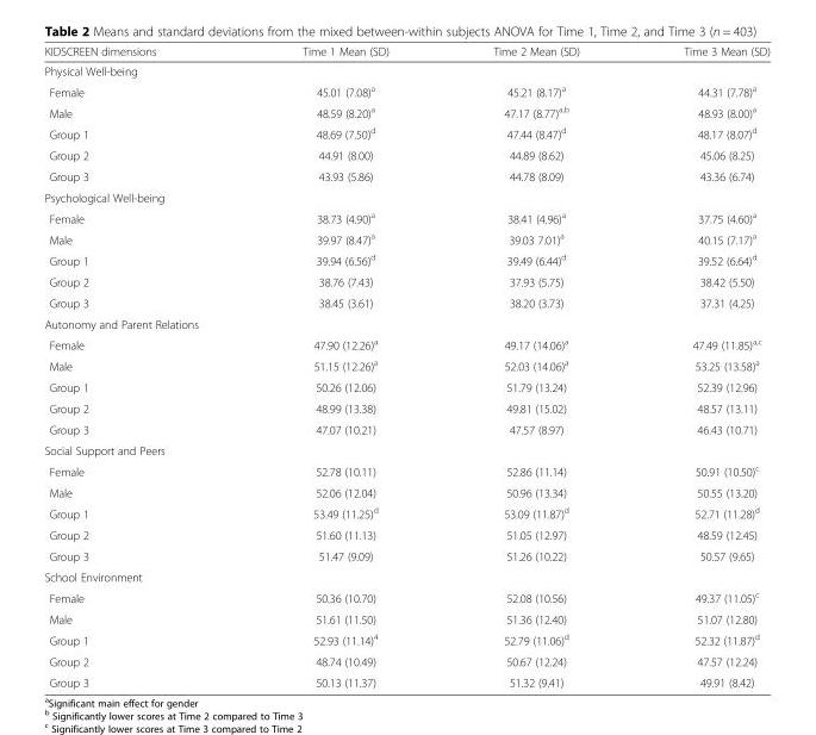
<table><thead><tr><td>KIDSCREEN dimensions</td><td>Time 1 Mean (SD)</td><td>Time 2 Mean (SD)</td><td>Time 3 Mean (SD)</td></tr></thead><tbody><tr><td colspan="4">Physical Well-being</td></tr><tr><td>Female</td><td>45.01 (7.08)<sup>a</sup></td><td>45.21 (8.17)<sup>a</sup></td><td>44.31 (7.78)<sup>a</sup></td></tr><tr><td>Male</td><td>48.59 (8.20)<sup>a</sup></td><td>47.17 (8.77)<sup>a,b</sup></td><td>48.93 (8.00)<sup>a</sup></td></tr><tr><td>Group 1</td><td>48.69 (7.50)<sup>d</sup></td><td>47.44 (8.47)<sup>d</sup></td><td>48.17 (8.07)<sup>d</sup></td></tr><tr><td>Group 2</td><td>44.91 (8.00)</td><td>44.89 (8.62)</td><td>45.06 (8.25)</td></tr><tr><td>Group 3</td><td>43.93 (5.86)</td><td>44.78 (8.09)</td><td>43.36 (6.74)</td></tr><tr><td colspan="4">Psychological Well-being</td></tr><tr><td>Female</td><td>38.73 (4.90)<sup>a</sup></td><td>38.41 (4.96)<sup>a</sup></td><td>37.75 (4.60)<sup>a</sup></td></tr><tr><td>Male</td><td>39.97 (8.47)<sup>a</sup></td><td>39.03 7.01)<sup>a</sup></td><td>40.15 (7.17)<sup>a</sup></td></tr><tr><td>Group 1</td><td>39.94 (6.56)<sup>d</sup></td><td>39.49 (6.44)<sup>d</sup></td><td>39.52 (6.64)<sup>d</sup></td></tr><tr><td>Group 2</td><td>38.76 (7.43)</td><td>37.93 (5.75)</td><td>38.42 (5.50)</td></tr><tr><td>Group 3</td><td>38.45 (3.61)</td><td>38.20 (3.73)</td><td>37.31 (4.25)</td></tr><tr><td colspan="4">Autonomy and Parent Relations</td></tr><tr><td>Female</td><td>47.90 (12.26)<sup>a</sup></td><td>49.17 (14.06)<sup>a</sup></td><td>47.49 (11.85)<sup>a,c</sup></td></tr><tr><td>Male</td><td>51.15 (12.26)<sup>a</sup></td><td>52.03 (14.06)<sup>a</sup></td><td>53.25 (13.58)<sup>a</sup></td></tr><tr><td>Group 1</td><td>50.26 (12.06)</td><td>51.79 (13.24)</td><td>52.39 (12.96)</td></tr><tr><td>Group 2</td><td>48.99 (13.38)</td><td>49.81 (15.02)</td><td>48.57 (13.11)</td></tr><tr><td>Group 3</td><td>47.07 (10.21)</td><td>47.57 (8.97)</td><td>46.43 (10.71)</td></tr><tr><td colspan="4">Social Support and Peers</td></tr><tr><td>Female</td><td>52.78 (10.11)</td><td>52.86 (11.14)</td><td>50.91 (10.50)<sup>c</sup></td></tr><tr><td>Male</td><td>52.06 (12.04)</td><td>50.96 (13.34)</td><td>50.55 (13.20)</td></tr><tr><td>Group 1</td><td>53.49 (11.25)<sup>d</sup></td><td>53.09 (11.87)<sup>d</sup></td><td>52.71 (11.28)<sup>d</sup></td></tr><tr><td>Group 2</td><td>51.60 (11.13)</td><td>51.05 (12.97)</td><td>48.59 (12.45)</td></tr><tr><td>Group 3</td><td>51.47 (9.09)</td><td>51.26 (10.22)</td><td>50.57 (9.65)</td></tr><tr><td colspan="4">School Environment</td></tr><tr><td>Female</td><td>50.36 (10.70)</td><td>52.08 (10.56)</td><td>49.37 (11.05)<sup>c</sup></td></tr><tr><td>Male</td><td>51.61 (11.50)</td><td>51.36 (12.40)</td><td>51.07 (12.80)</td></tr><tr><td>Group 1</td><td>52.93 (11.14)<sup>4</sup></td><td>52.79 (11.06)<sup>d</sup></td><td>52.32 (11.87)<sup>d</sup></td></tr><tr><td>Group 2</td><td>48.74 (10.49)</td><td>50.67 (12.24)</td><td>47.57 (12.24)</td></tr><tr><td>Group 3</td><td>50.13 (11.37)</td><td>51.32 (9.41)</td><td>49.91 (8.42)</td></tr></tbody></table>